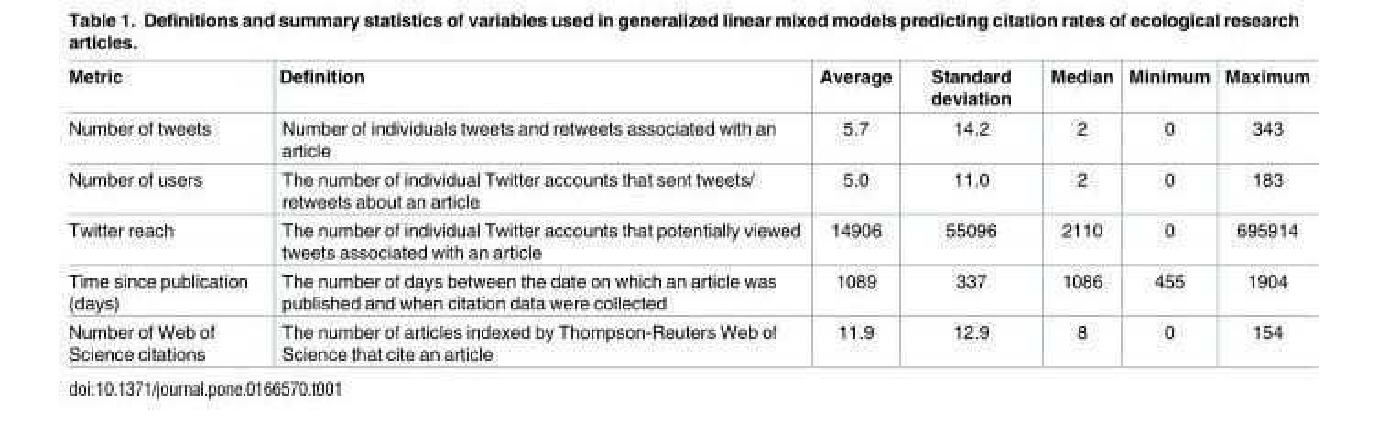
<table><thead><tr><td>Metric</td><td>Definition</td><td>Average</td><td>Standard deviation</td><td>Median</td><td>Minimum</td><td>Maximum</td></tr></thead><tbody><tr><td>Number of tweets</td><td>Number of individuals tweets and retweets associated with an article</td><td>5.7</td><td>14.2</td><td>2</td><td>0</td><td>343</td></tr><tr><td>Number of users</td><td>The number of individual Twitter accounts that sent tweets/ retweets about an article</td><td>5.0</td><td>11.0</td><td>2</td><td>0</td><td>183</td></tr><tr><td>Twitter reach</td><td>The number of individual Twitter accounts that potentially viewed tweets associated with an article</td><td>14906</td><td>55096</td><td>2110</td><td>0</td><td>695914</td></tr><tr><td>Time since publication (days)</td><td>The number of days between the date on which an article was published and when citation data were collected</td><td>1089</td><td>337</td><td>1086</td><td>455</td><td>1904</td></tr><tr><td>Number of Web of Science citations</td><td>The number of articles indexed by Thompson-Reuters Web of Science that cite an article</td><td>11.9</td><td>12.9</td><td>8</td><td>0</td><td>154</td></tr></tbody></table>